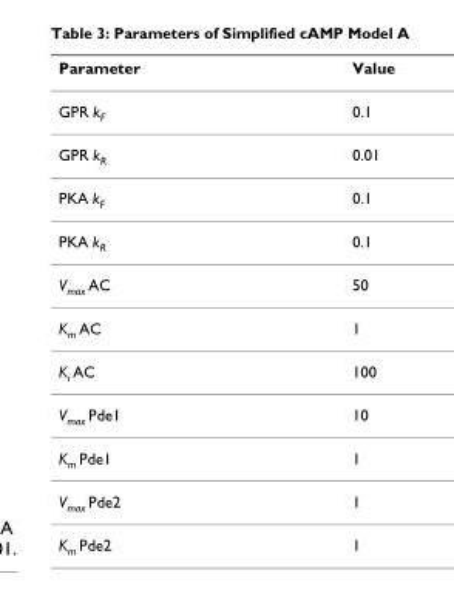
<table><thead><tr><td>Parameter</td><td>Value</td></tr></thead><tbody><tr><td>GPR k<sub>F</sub></td><td>0.1</td></tr><tr><td>GPR k<sub>R</sub></td><td>0.01</td></tr><tr><td>PKA k<sub>F</sub></td><td>0.1</td></tr><tr><td>PKA k<sub>R</sub></td><td>0.1</td></tr><tr><td>V<sub>max</sub> AC</td><td>50</td></tr><tr><td>K<sub>m</sub> AC</td><td>1</td></tr><tr><td>K<sub>i</sub> AC</td><td>100</td></tr><tr><td>V<sub>max</sub> Pde1</td><td>10</td></tr><tr><td>K<sub>m</sub> Pde1</td><td>1</td></tr><tr><td>V<sub>max</sub> Pde2</td><td>1</td></tr><tr><td>K<sub>m</sub> Pde2</td><td>1</td></tr></tbody></table>